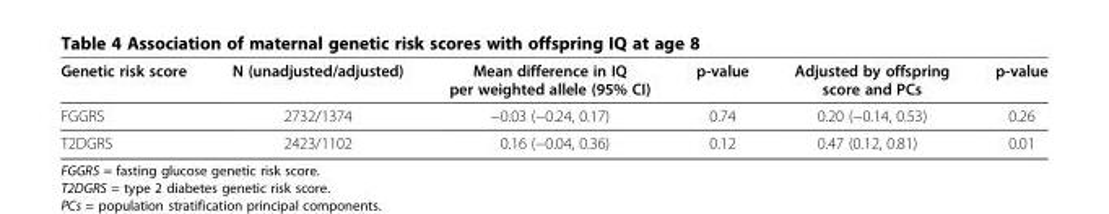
<table><thead><tr><td>Genetic risk score</td><td>N (unadjusted/adjusted)</td><td>Mean difference in IQ per weighted allele (95% CI)</td><td>p-value</td><td>Adjusted by offspring score and PCs</td><td>p-value</td></tr></thead><tbody><tr><td>FGGRS</td><td>2732/1374</td><td>−0.03 (−0.24, 0.17)</td><td>0.74</td><td>0.20 (−0.14, 0.53)</td><td>0.26</td></tr><tr><td>T2DGRS</td><td>2423/1102</td><td>0.16 (−0.04, 0.36)</td><td>0.12</td><td>0.47 (0.12, 0.81)</td><td>0.01</td></tr></tbody></table>